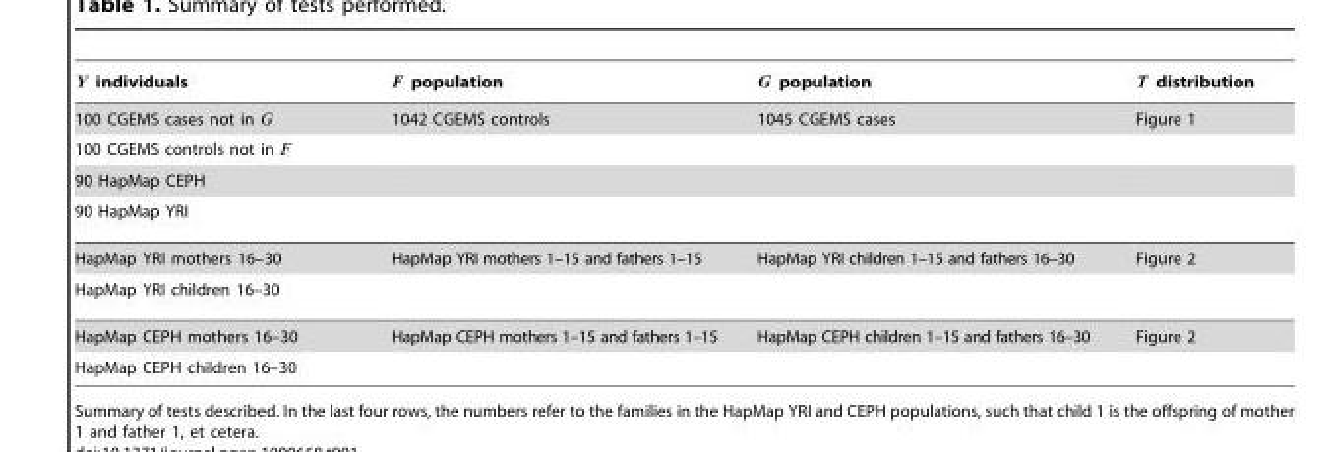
<table><thead><tr><td>Y individuals</td><td>F population</td><td>G population</td><td>T distribution</td></tr></thead><tbody><tr><td>100 CGEMS cases not in G</td><td>1042 CGEMS controls</td><td>1045 CGEMS cases</td><td>Figure 1</td></tr><tr><td colspan="4">100 CGEMS controls not in F</td></tr><tr><td colspan="4">90 HapMap CEPH</td></tr><tr><td colspan="4">90 HapMap YRI</td></tr><tr><td>HapMap YRI mothers 16–30</td><td>HapMap YRI mothers 1–15 and fathers 1–15</td><td>HapMap YRI children 1–15 and fathers 16–30</td><td>Figure 2</td></tr><tr><td colspan="4">HapMap YRI children 16–30</td></tr><tr><td>HapMap CEPH mothers 16–30</td><td>HapMap CEPH mothers 1–15 and fathers 1–15</td><td>HapMap CEPH children 1–15 and fathers 16–30</td><td>Figure 2</td></tr><tr><td>HapMap CEPH children 16–30</td><td></td><td></td><td></td></tr></tbody></table>